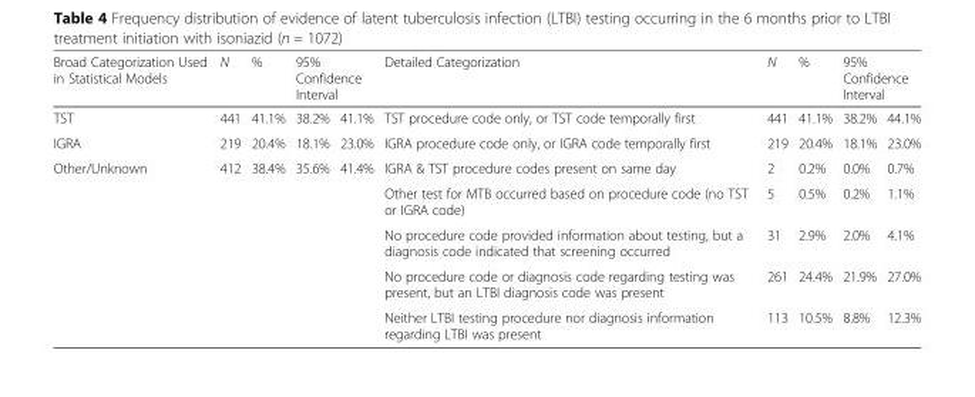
<table><thead><tr><td rowspan="2">Broad Categorization Used in Statistical Models TST</td><td rowspan="2">N 441</td><td rowspan="2">% 41.1%</td><td colspan="2">95% Confidence Interval</td><td rowspan="2">Detailed Categorization TST procedure code only, or TST code temporally first</td><td rowspan="2">N 441</td><td rowspan="2">% 41.1%</td><td colspan="2">95% Confidence Interval</td></tr><tr><td>38.2%</td><td>41.1%</td><td>38.2%</td><td>44.1%</td></tr></thead><tbody><tr><td>IGRA</td><td>219</td><td>20.4%</td><td>18.1%</td><td>23.0%</td><td>IGRA procedure code only, or IGRA code temporally first</td><td>219</td><td>20.4%</td><td>18.1%</td><td>23.0%</td></tr><tr><td rowspan="5">Other/Unknown</td><td rowspan="5">412</td><td rowspan="5">38.4%</td><td rowspan="5">35.6%</td><td rowspan="5">41.4%</td><td>IGRA &amp; TST procedure codes present on same day</td><td>2</td><td>0.2%</td><td>0.0%</td><td>0.7%</td></tr><tr><td>Other test for MTB occurred based on procedure code (no TST or IGRA code)</td><td>5</td><td>0.5%</td><td>0.2%</td><td>1.1%</td></tr><tr><td>No procedure code provided information about testing, but a diagnosis code indicated that screening occurred</td><td>31</td><td>2.9%</td><td>2.0%</td><td>4.1%</td></tr><tr><td>No procedure code or diagnosis code regarding testing was present, but an LTBI diagnosis code was present</td><td>261</td><td>24.4%</td><td>21.9%</td><td>27.0%</td></tr><tr><td>Neither LTBI testing procedure nor diagnosis information regarding LTBI was present</td><td>113</td><td>10.5%</td><td>8.8%</td><td>12.3%</td></tr></tbody></table>